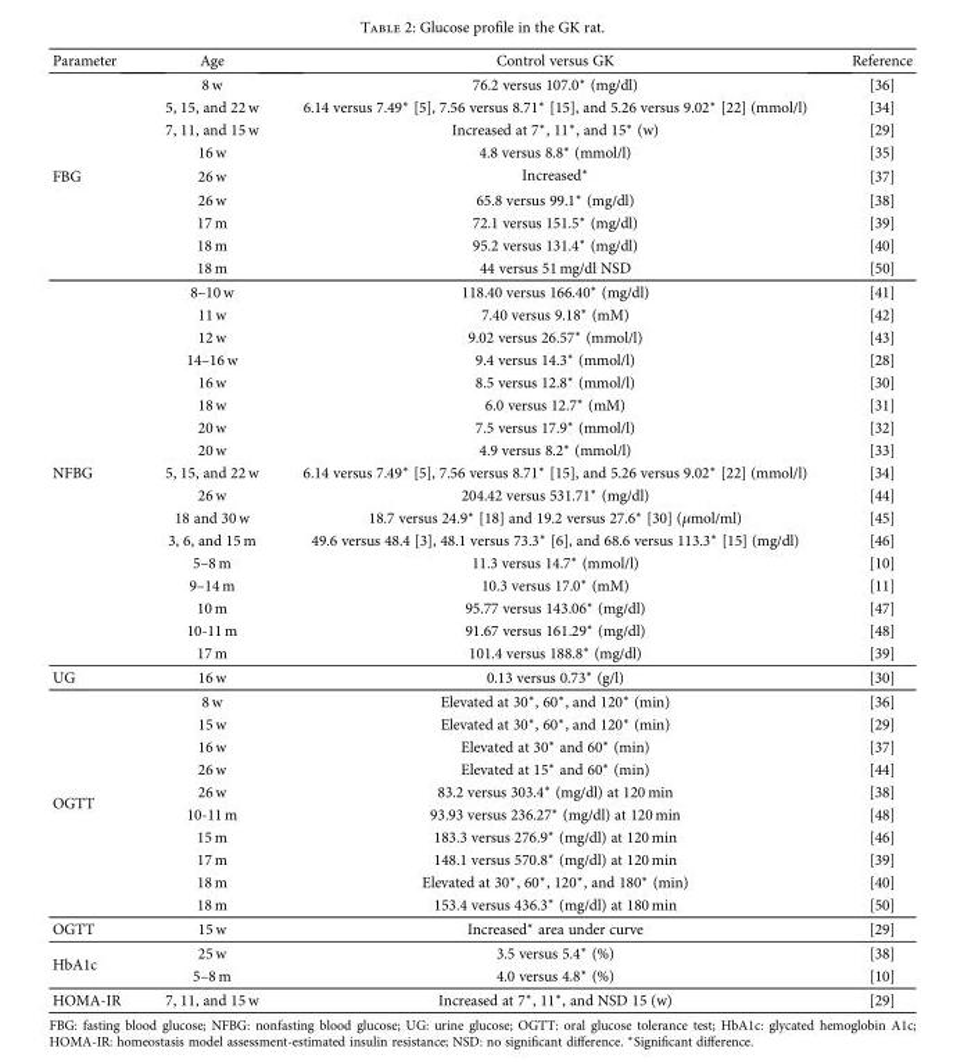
<table><thead><tr><td>Parameter</td><td>Age</td><td>Control versus GK</td><td>Reference</td></tr></thead><tbody><tr><td rowspan="9">FBG</td><td>8 w</td><td>76.2 versus 107.0∗ (mg/dl)</td><td>[36]</td></tr><tr><td>5, 15, and 22 w</td><td>6.14 versus 7.49∗ [5], 7.56 versus 8.71∗ [15], and 5.26 versus 9.02∗ [22] (mmol/l)</td><td>[34]</td></tr><tr><td>7, 11, and 15 w</td><td>Increased at 7∗, 11∗, and 15∗ (w)</td><td>[29]</td></tr><tr><td>16 w</td><td>4.8 versus 8.8∗ (mmol/l)</td><td>[35]</td></tr><tr><td>26 w</td><td>Increased∗</td><td>[37]</td></tr><tr><td>26 w</td><td>65.8 versus 99.1∗ (mg/dl)</td><td>[38]</td></tr><tr><td>17 m</td><td>72.1 versus 151.5∗ (mg/dl)</td><td>[39]</td></tr><tr><td>18 m</td><td>95.2 versus 131.4∗ (mg/dl)</td><td>[40]</td></tr><tr><td>18 m</td><td>44 versus 51 mg/dl NSD</td><td>[50]</td></tr><tr><td rowspan="17">NFBG</td><td>8–10 w</td><td>118.40 versus 166.40∗ (mg/dl)</td><td>[41]</td></tr><tr><td>11 w</td><td>7.40 versus 9.18∗ (mM)</td><td>[42]</td></tr><tr><td>12 w</td><td>9.02 versus 26.57∗ (mmol/l)</td><td>[43]</td></tr><tr><td>14–16 w</td><td>9.4 versus 14.3∗ (mmol/l)</td><td>[28]</td></tr><tr><td>16 w</td><td>8.5 versus 12.8∗ (mmol/l)</td><td>[30]</td></tr><tr><td>18 w</td><td>6.0 versus 12.7∗ (mM)</td><td>[31]</td></tr><tr><td>20 w</td><td>7.5 versus 17.9∗ (mmol/l)</td><td>[32]</td></tr><tr><td>20 w</td><td>4.9 versus 8.2∗ (mmol/l)</td><td>[33]</td></tr><tr><td>5, 15, and 22 w</td><td>6.14 versus 7.49∗ [5], 7.56 versus 8.71∗ [15], and 5.26 versus 9.02∗ [22] (mmol/l)</td><td>[34]</td></tr><tr><td>26 w</td><td>204.42 versus 531.71∗ (mg/dl)</td><td>[44]</td></tr><tr><td>18 and 30 w</td><td>18.7 versus 24.9∗ [18] and 19.2 versus 27.6∗ [30] (μmol/ml)</td><td>[45]</td></tr><tr><td>3, 6, and 15 m</td><td>49.6 versus 48.4 [3], 48.1 versus 73.3∗ [6], and 68.6 versus 113.3∗ [15] (mg/dl)</td><td>[46]</td></tr><tr><td>5–8 m</td><td>11.3 versus 14.7∗ (mmol/l)</td><td>[10]</td></tr><tr><td>9–14 m</td><td>10.3 versus 17.0∗ (mM)</td><td>[11]</td></tr><tr><td>10 m</td><td>95.77 versus 143.06∗ (mg/dl)</td><td>[47]</td></tr><tr><td>10-11 m</td><td>91.67 versus 161.29∗ (mg/dl)</td><td>[48]</td></tr><tr><td>17 m</td><td>101.4 versus 188.8∗ (mg/dl)</td><td>[39]</td></tr><tr><td>UG</td><td>16 w</td><td>0.13 versus 0.73∗ (g/l)</td><td>[30]</td></tr><tr><td rowspan="10">OGTT</td><td>8 w</td><td>Elevated at 30∗, 60∗, and 120∗ (min)</td><td>[36]</td></tr><tr><td>15 w</td><td>Elevated at 30∗, 60∗, and 120∗ (min)</td><td>[29]</td></tr><tr><td>16 w</td><td>Elevated at 30∗ and 60∗ (min)</td><td>[37]</td></tr><tr><td>26 w</td><td>Elevated at 15∗ and 60∗ (min)</td><td>[44]</td></tr><tr><td>26 w</td><td>83.2 versus 303.4∗ (mg/dl) at 120 min</td><td>[38]</td></tr><tr><td>10-11 m</td><td>93.93 versus 236.27∗ (mg/dl) at 120 min</td><td>[48]</td></tr><tr><td>15 m</td><td>183.3 versus 276.9∗ (mg/dl) at 120 min</td><td>[46]</td></tr><tr><td>17 m</td><td>148.1 versus 570.8∗ (mg/dl) at 120 min</td><td>[39]</td></tr><tr><td>18 m</td><td>Elevated at 30∗, 60∗, 120∗, and 180∗ (min)</td><td>[40]</td></tr><tr><td>18 m</td><td>153.4 versus 436.3∗ (mg/dl) at 180 min</td><td>[50]</td></tr><tr><td>OGTT</td><td>15 w</td><td>Increased∗ area under curve</td><td>[29]</td></tr><tr><td rowspan="2">HbA1c</td><td>25 w</td><td>3.5 versus 5.4∗ (%)</td><td>[38]</td></tr><tr><td>5–8 m</td><td>4.0 versus 4.8∗ (%)</td><td>[10]</td></tr><tr><td>HOMA-IR</td><td>7, 11, and 15 w</td><td>Increased at 7∗, 11∗, and NSD 15 (w)</td><td>[29]</td></tr></tbody></table>